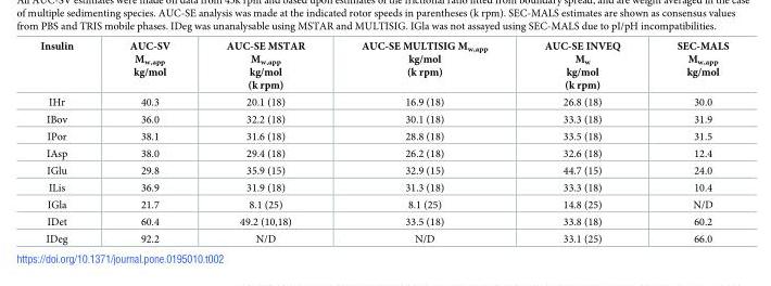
<table><thead><tr><td>Insulin</td><td>AUC-SV M<sub>w,app</sub> kg/mol</td><td>AUC-SE MSTAR M<sub>w,app</sub> kg/mol (k rpm)</td><td>AUC-SE MULTISIG M<sub>w,app</sub> kg/mol (k rpm)</td><td>AUC-SE INVEQ M<sub>w</sub> kg/mol (k rpm)</td><td>SEC-MALS M<sub>w,app</sub> kg/mol</td></tr></thead><tbody><tr><td>IHr</td><td>40.3</td><td>20.1 (18)</td><td>16.9 (18)</td><td>26.8 (18)</td><td>30.0</td></tr><tr><td>IBov</td><td>36.0</td><td>32.2 (18)</td><td>30.1 (18)</td><td>33.3 (18)</td><td>31.9</td></tr><tr><td>IPor</td><td>38.1</td><td>31.6 (18)</td><td>28.8 (18)</td><td>33.5 (18)</td><td>31.5</td></tr><tr><td>IAsp</td><td>38.0</td><td>29.4 (18)</td><td>26.2 (18)</td><td>32.6 (18)</td><td>12.4</td></tr><tr><td>IGlu</td><td>29.8</td><td>35.9 (15)</td><td>32.9 (15)</td><td>44.7 (15)</td><td>24.0</td></tr><tr><td>ILis</td><td>36.9</td><td>31.9 (18)</td><td>31.3 (18)</td><td>33.3 (18)</td><td>10.4</td></tr><tr><td>IGla</td><td>21.7</td><td>8.1 (25)</td><td>8.1 (25)</td><td>14.8 (25)</td><td>N/D</td></tr><tr><td>IDet</td><td>60.4</td><td>49.2 (10,18)</td><td>33.5 (18)</td><td>33.8 (18)</td><td>60.2</td></tr><tr><td>IDeg</td><td>92.2</td><td>N/D</td><td>N/D</td><td>33.1 (25)</td><td>66.0</td></tr></tbody></table>